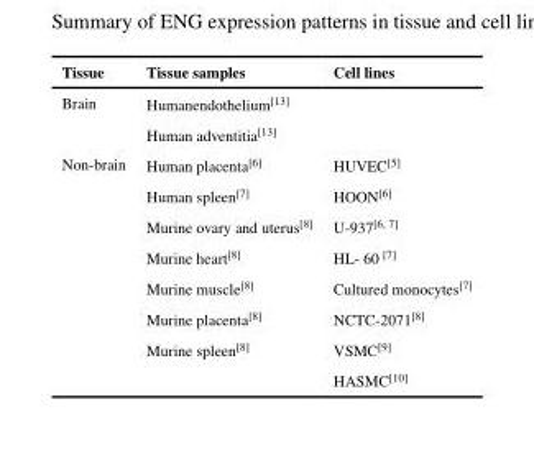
<table><thead><tr><td>Tissue</td><td>Tissue samples</td><td>Cell lines</td></tr></thead><tbody><tr><td rowspan="2">Brain</td><td>Humanendothelium<sup>[13]</sup></td><td></td></tr><tr><td>Human adventitia<sup>[13]</sup></td><td></td></tr><tr><td rowspan="8">Non-brain</td><td>Human placenta<sup>[6]</sup></td><td>HUVEC<sup>[5]</sup></td></tr><tr><td>Human spleen<sup>[7]</sup></td><td>HOON<sup>[6]</sup></td></tr><tr><td>Murine ovary and uterus<sup>[8]</sup></td><td>U-937<sup>[6, 7]</sup></td></tr><tr><td>Murine heart<sup>[8]</sup></td><td>HL- 60 <sup>[7]</sup></td></tr><tr><td>Murine muscle<sup>[8]</sup></td><td>Cultured monocytes<sup>[7]</sup></td></tr><tr><td>Murine placenta<sup>[8]</sup></td><td>NCTC-2071<sup>[8]</sup></td></tr><tr><td>Murine spleen<sup>[8]</sup></td><td>VSMC<sup>[9]</sup></td></tr><tr><td></td><td>HASMC<sup>[10]</sup></td></tr></tbody></table>